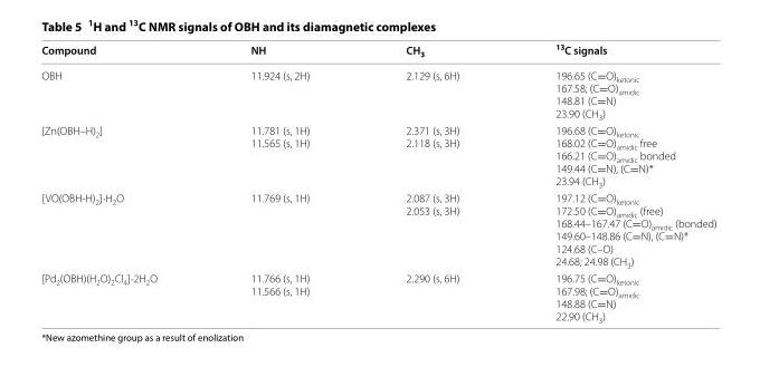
<table><thead><tr><td>Compound</td><td>NH</td><td>CH<sub>3</sub></td><td><sup>13</sup>C signals</td></tr></thead><tbody><tr><td>OBH</td><td>11.924 (s, 2H)</td><td>2.129 (s, 6H)</td><td>196.65 (C=O)<sub>ketonic</sub> 167.58; (C=O)<sub>amidic</sub> 148.81 (C=N) 23.90 (CH<sub>3</sub>)</td></tr><tr><td>[Zn(OBH–H)<sub>2</sub>]</td><td>11.781 (s, 1H) 11.565 (s, 1H)</td><td>2.371 (s, 3H) 2.118 (s, 3H)</td><td>196.68 (C=O)<sub>ketonic</sub> 168.02 (C=O)<sub>amidic</sub> free 166.21 (C=O)<sub>amidic</sub> bonded 149.44 (C=N), (C=N)* 23.94 (CH<sub>3</sub>)</td></tr><tr><td>[VO(OBH‑H)<sub>2</sub>]·H<sub>2</sub>O</td><td>11.769 (s, 1H)</td><td>2.087 (s, 3H) 2.053 (s, 3H)</td><td>197.12 (C=O)<sub>ketonic</sub> 172.50 (C=O)<sub>amidic</sub> (free) 168.44–167.47 (C=O)<sub>amidic</sub> (bonded) 149.60–148.86 (C=N), (C=N)* 124.68 (C–O) 24.68; 24.98 (CH<sub>3</sub>)</td></tr><tr><td>[Pd<sub>2</sub>(OBH)(H<sub>2</sub>O)<sub>2</sub>Cl<sub>4</sub>]·2H<sub>2</sub>O</td><td>11.766 (s, 1H) 11.566 (s, 1H)</td><td>2.290 (s, 6H)</td><td>196.75 (C=O)<sub>ketonic</sub> 167.98; (C=O)<sub>amidic</sub> 148.88 (C=N) 22.90 (CH<sub>3</sub>)</td></tr></tbody></table>